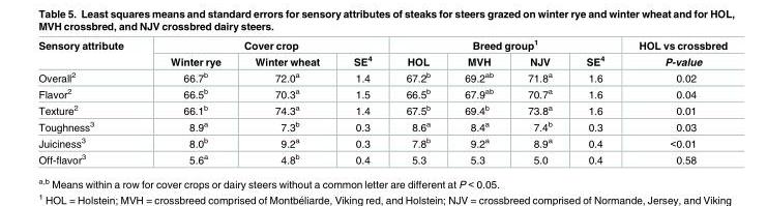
<table><thead><tr><td rowspan="2">Sensory attribute</td><td colspan="3">Cover crop</td><td colspan="4">Breed group<sup>1</sup></td><td rowspan="2">HOL vs crossbred P-value</td></tr><tr><td>Winter rye</td><td>Winter wheat</td><td>SE<sup>4</sup></td><td>HOL</td><td>MVH</td><td>NJV</td><td>SE<sup>4</sup></td></tr></thead><tbody><tr><td>Overall<sup>2</sup></td><td>66.7<sup>b</sup></td><td>72.0<sup>a</sup></td><td>1.4</td><td>67.2<sup>b</sup></td><td>69.2<sup>ab</sup></td><td>71.8<sup>a</sup></td><td>1.6</td><td>0.02</td></tr><tr><td>Flavor<sup>2</sup></td><td>66.5<sup>b</sup></td><td>70.3<sup>a</sup></td><td>1.5</td><td>66.5<sup>b</sup></td><td>67.9<sup>ab</sup></td><td>70.7<sup>a</sup></td><td>1.6</td><td>0.04</td></tr><tr><td>Texture<sup>2</sup></td><td>66.1<sup>b</sup></td><td>74.3<sup>a</sup></td><td>1.4</td><td>67.5<sup>b</sup></td><td>69.4<sup>b</sup></td><td>73.8<sup>a</sup></td><td>1.6</td><td>0.01</td></tr><tr><td>Toughness<sup>3</sup></td><td>8.9<sup>a</sup></td><td>7.3<sup>b</sup></td><td>0.3</td><td>8.6<sup>a</sup></td><td>8.4<sup>a</sup></td><td>7.4<sup>b</sup></td><td>0.3</td><td>0.03</td></tr><tr><td>Juiciness<sup>3</sup></td><td>8.0<sup>b</sup></td><td>9.2<sup>a</sup></td><td>0.3</td><td>7.8<sup>b</sup></td><td>9.2<sup>a</sup></td><td>8.9<sup>a</sup></td><td>0.4</td><td>&lt;0.01</td></tr><tr><td>Off-flavor<sup>3</sup></td><td>5.6<sup>a</sup></td><td>4.8<sup>b</sup></td><td>0.4</td><td>5.3</td><td>5.3</td><td>5.0</td><td>0.4</td><td>0.58</td></tr></tbody></table>